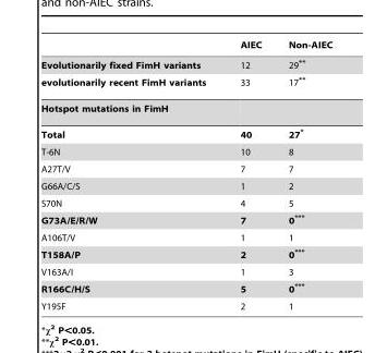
<table><thead><tr><td></td><td>AIEC</td><td>Non-AIEC</td></tr></thead><tbody><tr><td>Evolutionarily fixed FimH variants</td><td>12</td><td>29**</td></tr><tr><td>evolutionarily recent FimH variants</td><td>33</td><td>17**</td></tr><tr><td colspan="3">Hotspot mutations in FimH</td></tr><tr><td>Total</td><td>40</td><td>27*</td></tr><tr><td>T-6N</td><td>10</td><td>8</td></tr><tr><td>A27T/V</td><td>7</td><td>7</td></tr><tr><td>G66A/C/S</td><td>1</td><td>2</td></tr><tr><td>S70N</td><td>4</td><td>5</td></tr><tr><td>G73A/E/R/W</td><td>7</td><td>0***</td></tr><tr><td>A106T/V</td><td>1</td><td>1</td></tr><tr><td>T158A/P</td><td>2</td><td>0***</td></tr><tr><td>V163A/I</td><td>1</td><td>3</td></tr><tr><td>R166C/H/S</td><td>5</td><td>0***</td></tr><tr><td>Y195F</td><td>2</td><td>1</td></tr></tbody></table>